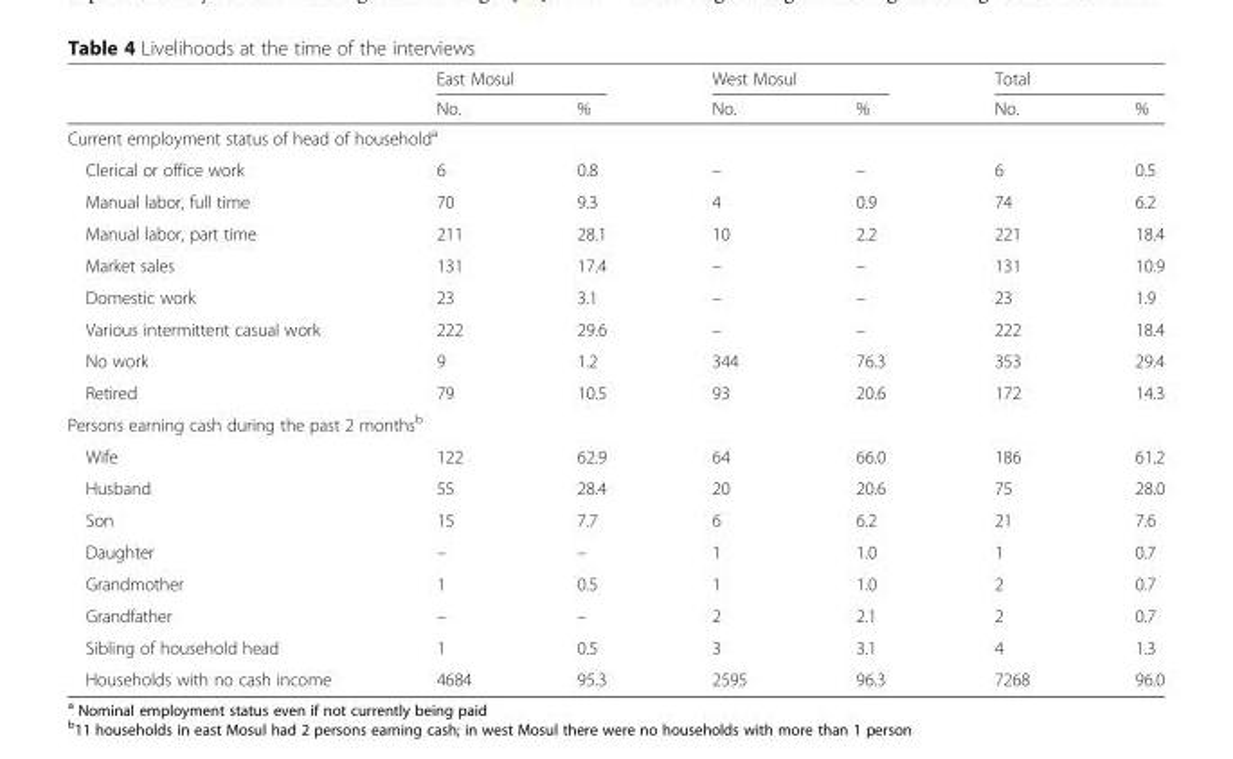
<table><thead><tr><td rowspan="2"></td><td colspan="2">East Mosul</td><td colspan="2">West Mosul</td><td colspan="2">Total</td></tr><tr><td>No.</td><td>%</td><td>No.</td><td>%</td><td>No.</td><td>%</td></tr></thead><tbody><tr><td colspan="7">Current employment status of head of household<sup>a</sup></td></tr><tr><td>Clerical or office work</td><td>6</td><td>0.8</td><td>–</td><td>–</td><td>6</td><td>0.5</td></tr><tr><td>Manual labor, full time</td><td>70</td><td>9.3</td><td>4</td><td>0.9</td><td>74</td><td>6.2</td></tr><tr><td>Manual labor, part time</td><td>211</td><td>28.1</td><td>10</td><td>2.2</td><td>221</td><td>18.4</td></tr><tr><td>Market sales</td><td>131</td><td>17.4</td><td>–</td><td>–</td><td>131</td><td>10.9</td></tr><tr><td>Domestic work</td><td>23</td><td>3.1</td><td>–</td><td>–</td><td>23</td><td>1.9</td></tr><tr><td>Various intermittent casual work</td><td>222</td><td>29.6</td><td>–</td><td>–</td><td>222</td><td>18.4</td></tr><tr><td>No work</td><td>9</td><td>1.2</td><td>344</td><td>76.3</td><td>353</td><td>29.4</td></tr><tr><td>Retired</td><td>79</td><td>10.5</td><td>93</td><td>20.6</td><td>172</td><td>14.3</td></tr><tr><td colspan="7">Persons earning cash during the past 2 months<sup>b</sup></td></tr><tr><td>Wife</td><td>122</td><td>62.9</td><td>64</td><td>66.0</td><td>186</td><td>61.2</td></tr><tr><td>Husband</td><td>55</td><td>28.4</td><td>20</td><td>20.6</td><td>75</td><td>28.0</td></tr><tr><td>Son</td><td>15</td><td>7.7</td><td>6</td><td>6.2</td><td>21</td><td>7.6</td></tr><tr><td>Daughter</td><td>–</td><td>–</td><td>1</td><td>1.0</td><td>1</td><td>0.7</td></tr><tr><td>Grandmother</td><td>1</td><td>0.5</td><td>1</td><td>1.0</td><td>2</td><td>0.7</td></tr><tr><td>Grandfather</td><td>–</td><td>–</td><td>2</td><td>2.1</td><td>2</td><td>0.7</td></tr><tr><td>Sibling of household head</td><td>1</td><td>0.5</td><td>3</td><td>3.1</td><td>4</td><td>1.3</td></tr><tr><td>Households with no cash income</td><td>4684</td><td>95.3</td><td>2595</td><td>96.3</td><td>7268</td><td>96.0</td></tr></tbody></table>